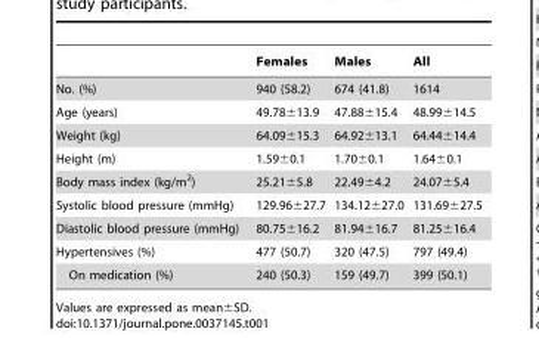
<table><thead><tr><td></td><td>Females</td><td>Males</td><td>All</td></tr></thead><tbody><tr><td>No. (%)</td><td>940 (58.2)</td><td>674 (41.8)</td><td>1614</td></tr><tr><td>Age (years)</td><td>49.78±13.9</td><td>47.88±15.4</td><td>48.99±14.5</td></tr><tr><td>Weight (kg)</td><td>64.09±15.3</td><td>64.92±13.1</td><td>64.44±14.4</td></tr><tr><td>Height (m)</td><td>1.59±0.1</td><td>1.70±0.1</td><td>1.64±0.1</td></tr><tr><td>Body mass index (kg/m<sup>2</sup>)</td><td>25.21±5.8</td><td>22.49±4.2</td><td>24.07±5.4</td></tr><tr><td>Systolic blood pressure (mmHg)</td><td>129.96±27.7</td><td>134.12±27.0</td><td>131.69±27.5</td></tr><tr><td>Diastolic blood pressure (mmHg)</td><td>80.75±16.2</td><td>81.94±16.7</td><td>81.25±16.4</td></tr><tr><td>Hypertensives (%)</td><td>477 (50.7)</td><td>320 (47.5)</td><td>797 (49.4)</td></tr><tr><td>On medication (%)</td><td>240 (50.3)</td><td>159 (49.7)</td><td>399 (50.1)</td></tr></tbody></table>